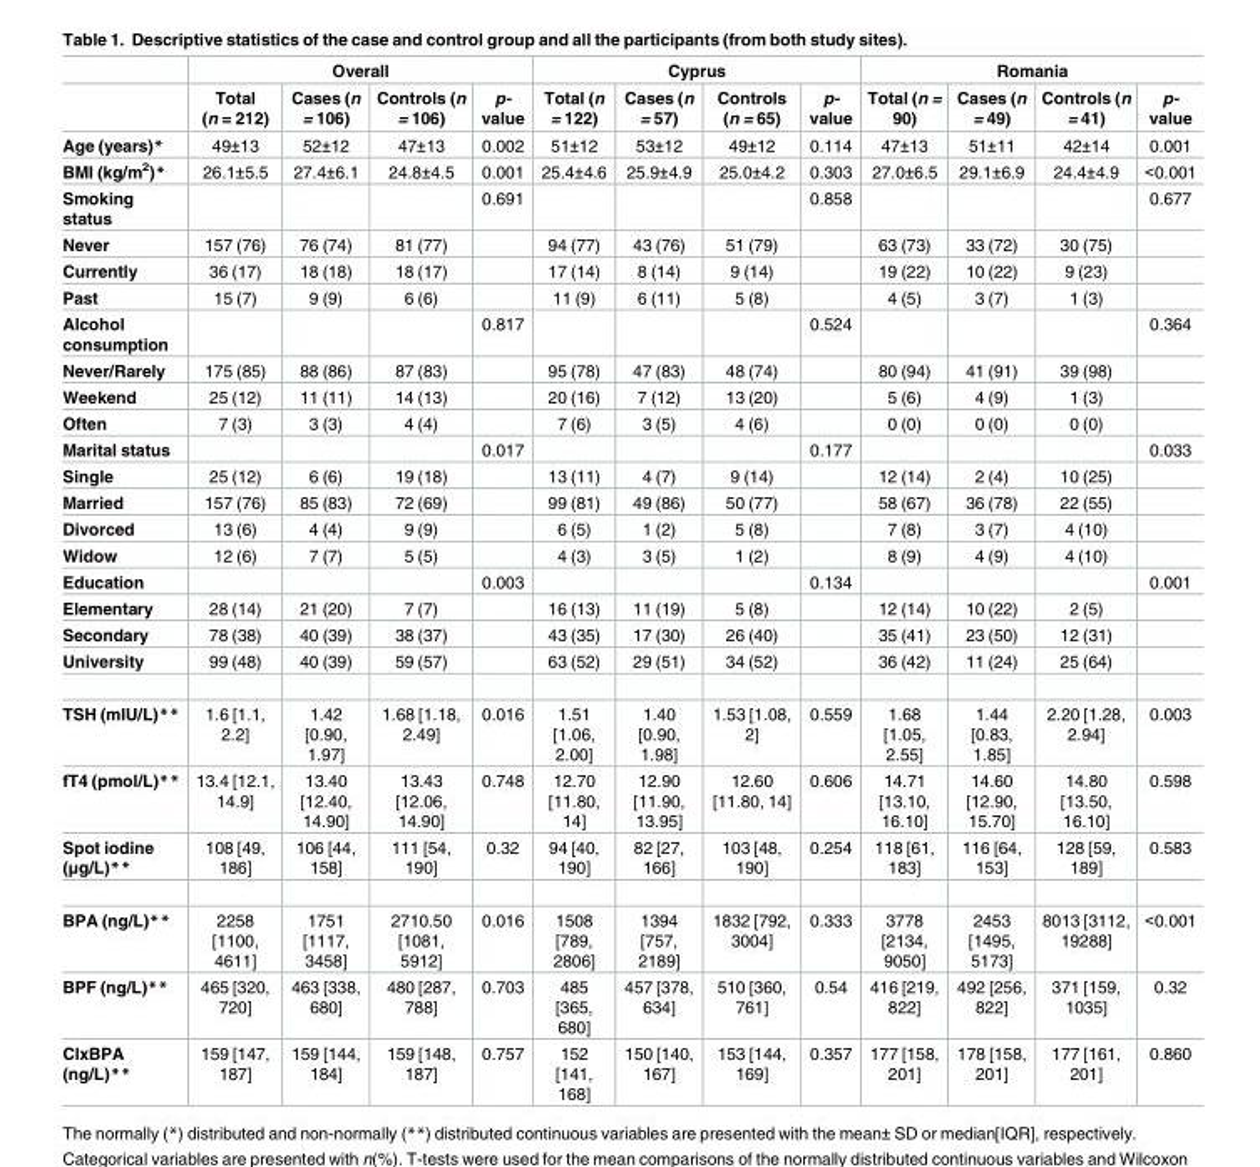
<table><thead><tr><td rowspan="2"></td><td colspan="4">Overall</td><td colspan="4">Cyprus</td><td colspan="4">Romania</td></tr><tr><td>Total (n = 212)</td><td>Cases (n = 106)</td><td>Controls (n = 106)</td><td>p- value</td><td>Total (n = 122)</td><td>Cases (n = 57)</td><td>Controls (n = 65)</td><td>p- value</td><td>Total (n = 90)</td><td>Cases (n = 49)</td><td>Controls (n = 41)</td><td>p- value</td></tr></thead><tbody><tr><td>Age (years)*</td><td>49±13</td><td>52±12</td><td>47±13</td><td>0.002</td><td>51±12</td><td>53±12</td><td>49±12</td><td>0.114</td><td>47±13</td><td>51±11</td><td>42±14</td><td>0.001</td></tr><tr><td>BMI (kg/m<sup>2</sup>)*</td><td>26.1±5.5</td><td>27.4±6.1</td><td>24.8±4.5</td><td>0.001</td><td>25.4±4.6</td><td>25.9±4.9</td><td>25.0±4.2</td><td>0.303</td><td>27.0±6.5</td><td>29.1±6.9</td><td>24.4±4.9</td><td>&lt;0.001</td></tr><tr><td>Smoking status</td><td></td><td></td><td></td><td>0.691</td><td></td><td></td><td></td><td>0.858</td><td></td><td></td><td></td><td>0.677</td></tr><tr><td>Never</td><td>157 (76)</td><td>76 (74)</td><td>81 (77)</td><td></td><td>94 (77)</td><td>43 (76)</td><td>51 (79)</td><td></td><td>63 (73)</td><td>33 (72)</td><td>30 (75)</td><td></td></tr><tr><td>Currently</td><td>36 (17)</td><td>18 (18)</td><td>18 (17)</td><td></td><td>17 (14)</td><td>8 (14)</td><td>9 (14)</td><td></td><td>19 (22)</td><td>10 (22)</td><td>9 (23)</td><td></td></tr><tr><td>Past</td><td>15 (7)</td><td>9 (9)</td><td>6 (6)</td><td></td><td>11 (9)</td><td>6 (11)</td><td>5 (8)</td><td></td><td>4 (5)</td><td>3 (7)</td><td>1 (3)</td><td></td></tr><tr><td>Alcohol consumption</td><td></td><td></td><td></td><td>0.817</td><td></td><td></td><td></td><td>0.524</td><td></td><td></td><td></td><td>0.364</td></tr><tr><td>Never/Rarely</td><td>175 (85)</td><td>88 (86)</td><td>87 (83)</td><td></td><td>95 (78)</td><td>47 (83)</td><td>48 (74)</td><td></td><td>80 (94)</td><td>41 (91)</td><td>39 (98)</td><td></td></tr><tr><td>Weekend</td><td>25 (12)</td><td>11 (11)</td><td>14 (13)</td><td></td><td>20 (16)</td><td>7 (12)</td><td>13 (20)</td><td></td><td>5 (6)</td><td>4 (9)</td><td>1 (3)</td><td></td></tr><tr><td>Often</td><td>7 (3)</td><td>3 (3)</td><td>4 (4)</td><td></td><td>7 (6)</td><td>3 (5)</td><td>4 (6)</td><td></td><td>0 (0)</td><td>0 (0)</td><td>0 (0)</td><td></td></tr><tr><td>Marital status</td><td></td><td></td><td></td><td>0.017</td><td></td><td></td><td></td><td>0.177</td><td></td><td></td><td></td><td>0.033</td></tr><tr><td>Single</td><td>25 (12)</td><td>6 (6)</td><td>19 (18)</td><td></td><td>13 (11)</td><td>4 (7)</td><td>9 (14)</td><td></td><td>12 (14)</td><td>2 (4)</td><td>10 (25)</td><td></td></tr><tr><td>Married</td><td>157 (76)</td><td>85 (83)</td><td>72 (69)</td><td></td><td>99 (81)</td><td>49 (86)</td><td>50 (77)</td><td></td><td>58 (67)</td><td>36 (78)</td><td>22 (55)</td><td></td></tr><tr><td>Divorced</td><td>13 (6)</td><td>4 (4)</td><td>9 (9)</td><td></td><td>6 (5)</td><td>1 (2)</td><td>5 (8)</td><td></td><td>7 (8)</td><td>3 (7)</td><td>4 (10)</td><td></td></tr><tr><td>Widow</td><td>12 (6)</td><td>7 (7)</td><td>5 (5)</td><td></td><td>4 (3)</td><td>3 (5)</td><td>1 (2)</td><td></td><td>8 (9)</td><td>4 (9)</td><td>4 (10)</td><td></td></tr><tr><td>Education</td><td></td><td></td><td></td><td>0.003</td><td></td><td></td><td></td><td>0.134</td><td></td><td></td><td></td><td>0.001</td></tr><tr><td>Elementary</td><td>28 (14)</td><td>21 (20)</td><td>7 (7)</td><td></td><td>16 (13)</td><td>11 (19)</td><td>5 (8)</td><td></td><td>12 (14)</td><td>10 (22)</td><td>2 (5)</td><td></td></tr><tr><td>Secondary</td><td>78 (38)</td><td>40 (39)</td><td>38 (37)</td><td></td><td>43 (35)</td><td>17 (30)</td><td>26 (40)</td><td></td><td>35 (41)</td><td>23 (50)</td><td>12 (31)</td><td></td></tr><tr><td>University</td><td>99 (48)</td><td>40 (39)</td><td>59 (57)</td><td></td><td>63 (52)</td><td>29 (51)</td><td>34 (52)</td><td></td><td>36 (42)</td><td>11 (24)</td><td>25 (64)</td><td></td></tr><tr><td>TSH (mIU/L)**</td><td>1.6 [1.1, 2.2]</td><td>1.42 [0.90, 1.97]</td><td>1.68 [1.18, 2.49]</td><td>0.016</td><td>1.51 [1.06, 2.00]</td><td>1.40 [0.90, 1.98]</td><td>1.53 [1.08, 2]</td><td>0.559</td><td>1.68 [1.05, 2.55]</td><td>1.44 [0.83, 1.85]</td><td>2.20 [1.28, 2.94]</td><td>0.003</td></tr><tr><td>fT4 (pmol/L)**</td><td>13.4 [12.1, 14.9]</td><td>13.40 [12.40, 14.90]</td><td>13.43 [12.06, 14.90]</td><td>0.748</td><td>12.70 [11.80, 14]</td><td>12.90 [11.90, 13.95]</td><td>12.60 [11.80, 14]</td><td>0.606</td><td>14.71 [13.10, 16.10]</td><td>14.60 [12.90, 15.70]</td><td>14.80 [13.50, 16.10]</td><td>0.598</td></tr><tr><td>Spot iodine (μg/L)**</td><td>108 [49, 186]</td><td>106 [44, 158]</td><td>111 [54, 190]</td><td>0.32</td><td>94 [40, 190]</td><td>82 [27, 166]</td><td>103 [48, 190]</td><td>0.254</td><td>118 [61, 183]</td><td>116 [64, 153]</td><td>128 [59, 189]</td><td>0.583</td></tr><tr><td>BPA (ng/L)**</td><td>2258 [1100, 4611]</td><td>1751 [1117, 3458]</td><td>2710.50 [1081, 5912]</td><td>0.016</td><td>1508 [789, 2806]</td><td>1394 [757, 2189]</td><td>1832 [792, 3004]</td><td>0.333</td><td>3778 [2134, 9050]</td><td>2453 [1495, 5173]</td><td>8013 [3112, 19288]</td><td>&lt;0.001</td></tr><tr><td>BPF (ng/L)**</td><td>465 [320, 720]</td><td>463 [338, 680]</td><td>480 [287, 788]</td><td>0.703</td><td>485 [365, 680]</td><td>457 [378, 634]</td><td>510 [360, 761]</td><td>0.54</td><td>416 [219, 822]</td><td>492 [256, 822]</td><td>371 [159, 1035]</td><td>0.32</td></tr><tr><td>ClxBPA (ng/L)**</td><td>159 [147, 187]</td><td>159 [144, 184]</td><td>159 [148, 187]</td><td>0.757</td><td>152 [141, 168]</td><td>150 [140, 167]</td><td>153 [144, 169]</td><td>0.357</td><td>177 [158, 201]</td><td>178 [158, 201]</td><td>177 [161, 201]</td><td>0.860</td></tr></tbody></table>